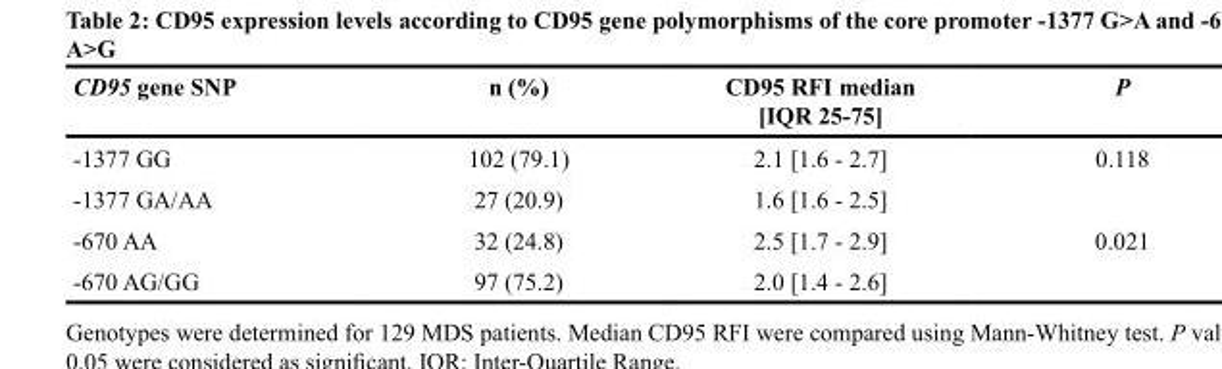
<table><thead><tr><td>CD95 gene SNP</td><td>n (%)</td><td>CD95 RFI median [IQR 25-75]</td><td>P</td></tr></thead><tbody><tr><td>-1377 GG</td><td>102 (79.1)</td><td>2.1 [1.6 - 2.7]</td><td>0.118</td></tr><tr><td>-1377 GA/AA</td><td>27 (20.9)</td><td>1.6 [1.6 - 2.5]</td><td></td></tr><tr><td>-670 AA</td><td>32 (24.8)</td><td>2.5 [1.7 - 2.9]</td><td>0.021</td></tr><tr><td>-670 AG/GG</td><td>97 (75.2)</td><td>2.0 [1.4 - 2.6]</td><td></td></tr></tbody></table>